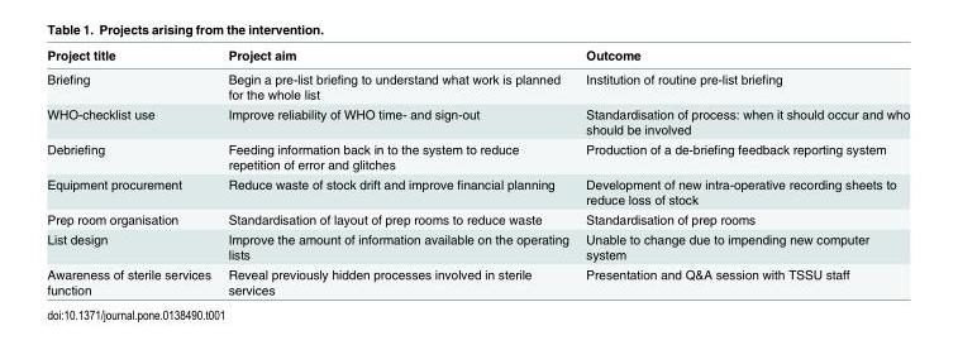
<table><thead><tr><td>Project title</td><td>Project aim</td><td>Outcome</td></tr></thead><tbody><tr><td>Briefing</td><td>Begin a pre-list briefing to understand what work is planned for the whole list</td><td>Institution of routine pre-list briefing</td></tr><tr><td>WHO-checklist use</td><td>Improve reliability of WHO time- and sign-out</td><td>Standardisation of process: when it should occur and who should be involved</td></tr><tr><td>Debriefing</td><td>Feeding information back in to the system to reduce repetition of error and glitches</td><td>Production of a de-briefing feedback reporting system</td></tr><tr><td>Equipment procurement</td><td>Reduce waste of stock drift and improve financial planning</td><td>Development of new intra-operative recording sheets to reduce loss of stock</td></tr><tr><td>Prep room organisation</td><td>Standardisation of layout of prep rooms to reduce waste</td><td>Standardisation of prep rooms</td></tr><tr><td>List design</td><td>Improve the amount of information available on the operating lists</td><td>Unable to change due to impending new computer system</td></tr><tr><td>Awareness of sterile services function</td><td>Reveal previously hidden processes involved in sterile services</td><td>Presentation and Q&amp;A session with TSSU staff</td></tr></tbody></table>